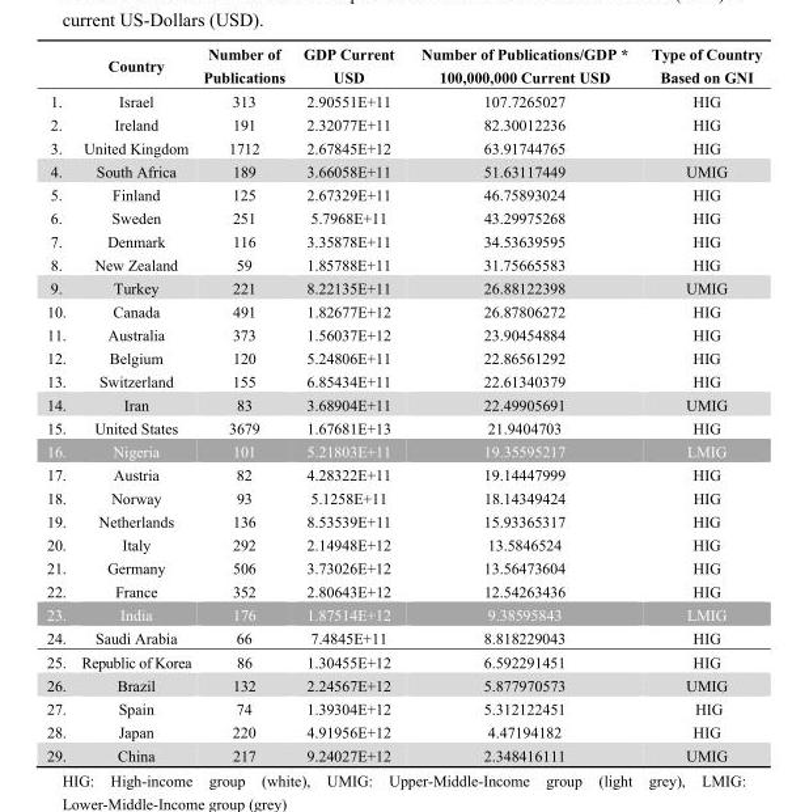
<table><thead><tr><td></td><td>Country</td><td>Number of Publications</td><td>GDP Current USD</td><td>Number of Publications/GDP * 100,000,000 Current USD</td><td>Type of Country Based on GNI</td></tr></thead><tbody><tr><td>1.</td><td>Israel</td><td>313</td><td>2.90551E+11</td><td>107.7265027</td><td>HIG</td></tr><tr><td>2.</td><td>Ireland</td><td>191</td><td>2.32077E+11</td><td>82.30012236</td><td>HIG</td></tr><tr><td>3.</td><td>United Kingdom</td><td>1712</td><td>2.67845E+12</td><td>63.91744765</td><td>HIG</td></tr><tr><td>4.</td><td>South Africa</td><td>189</td><td>3.66058E+11</td><td>51.63117449</td><td>UMIG</td></tr><tr><td>5.</td><td>Finland</td><td>125</td><td>2.67329E+11</td><td>46.75893024</td><td>HIG</td></tr><tr><td>6.</td><td>Sweden</td><td>251</td><td>5.7968E+11</td><td>43.29975268</td><td>HIG</td></tr><tr><td>7.</td><td>Denmark</td><td>116</td><td>3.35878E+11</td><td>34.53639595</td><td>HIG</td></tr><tr><td>8.</td><td>New Zealand</td><td>59</td><td>1.85788E+11</td><td>31.75665583</td><td>HIG</td></tr><tr><td>9.</td><td>Turkey</td><td>221</td><td>8.22135E+11</td><td>26.88122398</td><td>UMIG</td></tr><tr><td>10.</td><td>Canada</td><td>491</td><td>1.82677E+12</td><td>26.87806272</td><td>HIG</td></tr><tr><td>11.</td><td>Australia</td><td>373</td><td>1.56037E+12</td><td>23.90454884</td><td>HIG</td></tr><tr><td>12.</td><td>Belgium</td><td>120</td><td>5.24806E+11</td><td>22.86561292</td><td>HIG</td></tr><tr><td>13.</td><td>Switzerland</td><td>155</td><td>6.85434E+11</td><td>22.61340379</td><td>HIG</td></tr><tr><td>14.</td><td>Iran</td><td>83</td><td>3.68904E+11</td><td>22.49905691</td><td>UMIG</td></tr><tr><td>15.</td><td>United States</td><td>3679</td><td>1.67681E+13</td><td>21.9404703</td><td>HIG</td></tr><tr><td>16.</td><td>Nigeria</td><td>101</td><td>5.21803E+11</td><td>19.35595217</td><td>LMIG</td></tr><tr><td>17.</td><td>Austria</td><td>82</td><td>4.28322E+11</td><td>19.14447999</td><td>HIG</td></tr><tr><td>18.</td><td>Norway</td><td>93</td><td>5.1258E+11</td><td>18.14349424</td><td>HIG</td></tr><tr><td>19.</td><td>Netherlands</td><td>136</td><td>8.53539E+11</td><td>15.93365317</td><td>HIG</td></tr><tr><td>20.</td><td>Italy</td><td>292</td><td>2.14948E+12</td><td>13.5846524</td><td>HIG</td></tr><tr><td>21.</td><td>Germany</td><td>506</td><td>3.73026E+12</td><td>13.56473604</td><td>HIG</td></tr><tr><td>22.</td><td>France</td><td>352</td><td>2.80643E+12</td><td>12.54263436</td><td>HIG</td></tr><tr><td>23.</td><td>India</td><td>176</td><td>1.87514E+12</td><td>9.38595843</td><td>LMIG</td></tr><tr><td>24.</td><td>Saudi Arabia</td><td>66</td><td>7.4845E+11</td><td>8.818229043</td><td>HIG</td></tr><tr><td>25.</td><td>Republic of Korea</td><td>86</td><td>1.30455E+12</td><td>6.592291451</td><td>HIG</td></tr><tr><td>26.</td><td>Brazil</td><td>132</td><td>2.24567E+12</td><td>5.877970573</td><td>UMIG</td></tr><tr><td>27.</td><td>Spain</td><td>74</td><td>1.39304E+12</td><td>5.312122451</td><td>HIG</td></tr><tr><td>28.</td><td>Japan</td><td>220</td><td>4.91956E+12</td><td>4.47194182</td><td>HIG</td></tr><tr><td>29.</td><td>China</td><td>217</td><td>9.24027E+12</td><td>2.348416111</td><td>UMIG</td></tr></tbody></table>